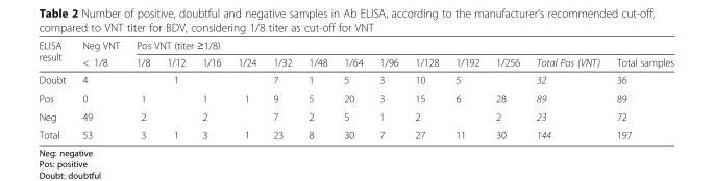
<table><thead><tr><td rowspan="2">ELISA result</td><td rowspan="2">Neg VNT &lt; 1/8</td><td colspan="13">Pos VNT (titer ≥1/8)</td></tr><tr><td>1/8</td><td>1/12</td><td>1/16</td><td>1/24</td><td>1/32</td><td>1/48</td><td>1/64</td><td>1/96</td><td>1/128</td><td>1/192</td><td>1/256</td><td>Total Pos (VNT)</td><td>Total samples</td></tr></thead><tbody><tr><td>Doubt</td><td>4</td><td></td><td>1</td><td></td><td></td><td>7</td><td>1</td><td>5</td><td>3</td><td>10</td><td>5</td><td></td><td>32</td><td>36</td></tr><tr><td>Pos</td><td>0</td><td>1</td><td></td><td>1</td><td>1</td><td>9</td><td>5</td><td>20</td><td>3</td><td>15</td><td>6</td><td>28</td><td>89</td><td>89</td></tr><tr><td>Neg</td><td>49</td><td>2</td><td></td><td>2</td><td></td><td>7</td><td>2</td><td>5</td><td>1</td><td>2</td><td></td><td>2</td><td>23</td><td>72</td></tr><tr><td>Total</td><td>53</td><td>3</td><td>1</td><td>3</td><td>1</td><td>23</td><td>8</td><td>30</td><td>7</td><td>27</td><td>11</td><td>30</td><td>144</td><td>197</td></tr></tbody></table>